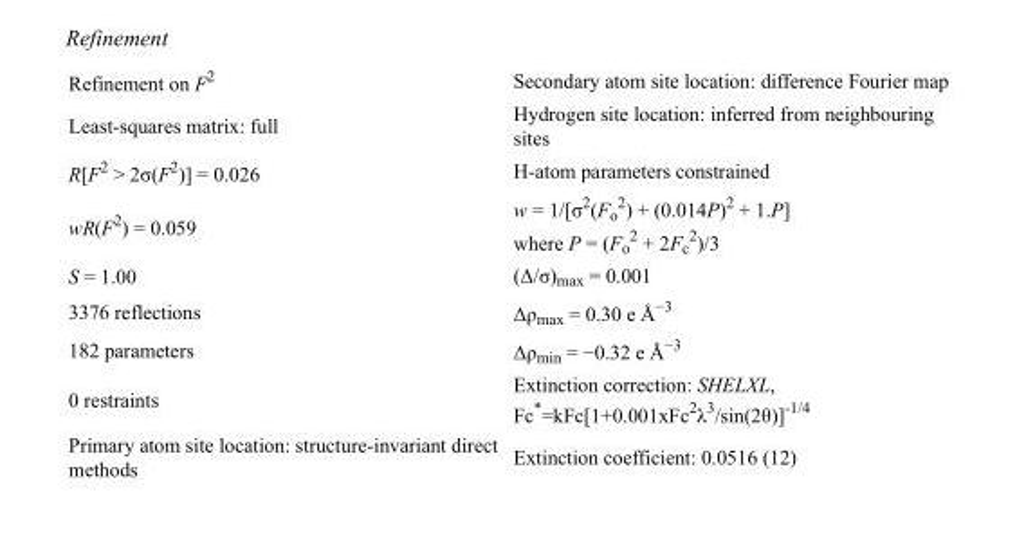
<table><tbody><tr><td>Refinement on F<sup>2</sup></td><td>Secondary atom site location: difference Fourier map</td></tr><tr><td>Least-squares matrix: full</td><td>Hydrogen site location: inferred from neighbouring sites</td></tr><tr><td>R[F<sup>2</sup> &gt; 2σ(F<sup>2</sup>)] = 0.026</td><td>H-atom parameters constrained</td></tr><tr><td>wR(F<sup>2</sup>) = 0.059</td><td>w = 1/[σ<sup>2</sup>(F<sub>o</sub> <sup>2</sup>) + (0.014P)<sup>2</sup> + 1.P] where P = (F<sub>o</sub> <sup>2</sup> + 2F<sub>c</sub> <sup>2</sup>)/3</td></tr><tr><td>S = 1.00</td><td>(Δ/σ)<sub>max</sub> = 0.001</td></tr><tr><td>3376 reflections</td><td>Δρ<sub>max</sub> = 0.30 e Å<sup>−3</sup></td></tr><tr><td>182 parameters</td><td>Δρ<sub>min</sub> = −0.32 e Å<sup>−3</sup></td></tr><tr><td>0 restraints</td><td>Extinction correction: SHELXL, Fc*=kFc[1+0.001xFc<sup>2</sup>λ<sup>3</sup>/sin(2θ)]<sup>-1/4</sup></td></tr><tr><td>Primary atom site location: structure-invariant direct methods</td><td>Extinction coefficient: 0.0516 (12)</td></tr></tbody></table>